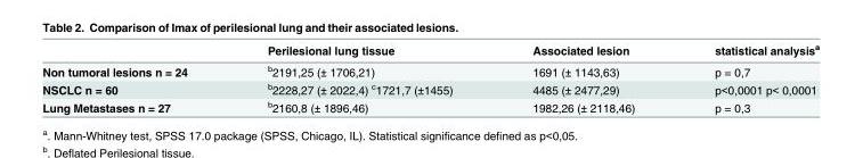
<table><thead><tr><td></td><td>Perilesional lung tissue</td><td>Associated lesion</td><td>statistical analysis<sup>a</sup></td></tr></thead><tbody><tr><td>Non tumoral lesions n = 24</td><td><sup>b</sup>2191,25 (± 1706,21)</td><td>1691 (± 1143,63)</td><td>p = 0,7</td></tr><tr><td>NSCLC n = 60</td><td><sup>b</sup>2228,27 (± 2022,4) <sup>c</sup>1721,7 (±1455)</td><td>4485 (± 2477,29)</td><td>p&lt;0,0001 p&lt; 0,0001</td></tr><tr><td>Lung Metastases n = 27</td><td><sup>b</sup>2160,8 (± 1896,46)</td><td>1982,26 (± 2118,46)</td><td>p = 0,3</td></tr></tbody></table>